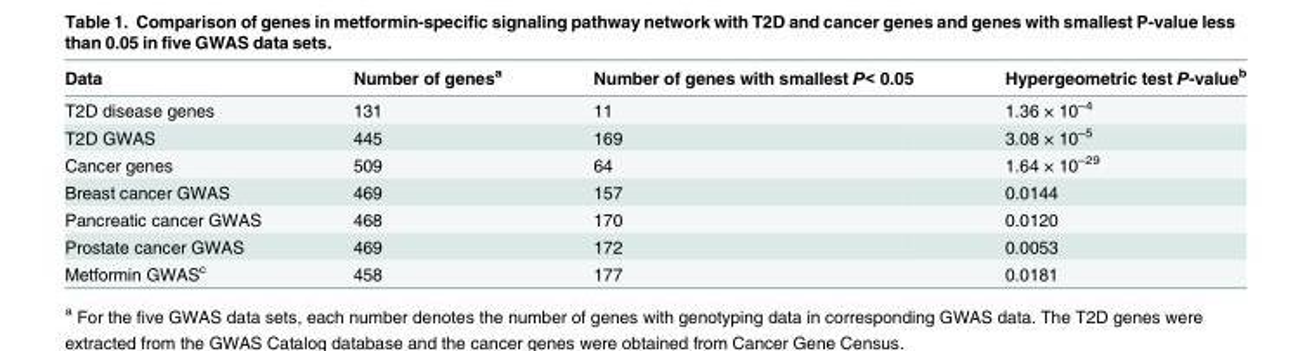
<table><thead><tr><td>Data</td><td>Number of genes<sup>a</sup></td><td>Number of genes with smallest P&lt; 0.05</td><td>Hypergeometric test P-value<sup>b</sup></td></tr></thead><tbody><tr><td>T2D disease genes</td><td>131</td><td>11</td><td>1.36 × 10<sup>–4</sup></td></tr><tr><td>T2D GWAS</td><td>445</td><td>169</td><td>3.08 × 10<sup>–5</sup></td></tr><tr><td>Cancer genes</td><td>509</td><td>64</td><td>1.64 × 10<sup>–29</sup></td></tr><tr><td>Breast cancer GWAS</td><td>469</td><td>157</td><td>0.0144</td></tr><tr><td>Pancreatic cancer GWAS</td><td>468</td><td>170</td><td>0.0120</td></tr><tr><td>Prostate cancer GWAS</td><td>469</td><td>172</td><td>0.0053</td></tr><tr><td>Metformin GWAS<sup>c</sup></td><td>458</td><td>177</td><td>0.0181</td></tr></tbody></table>